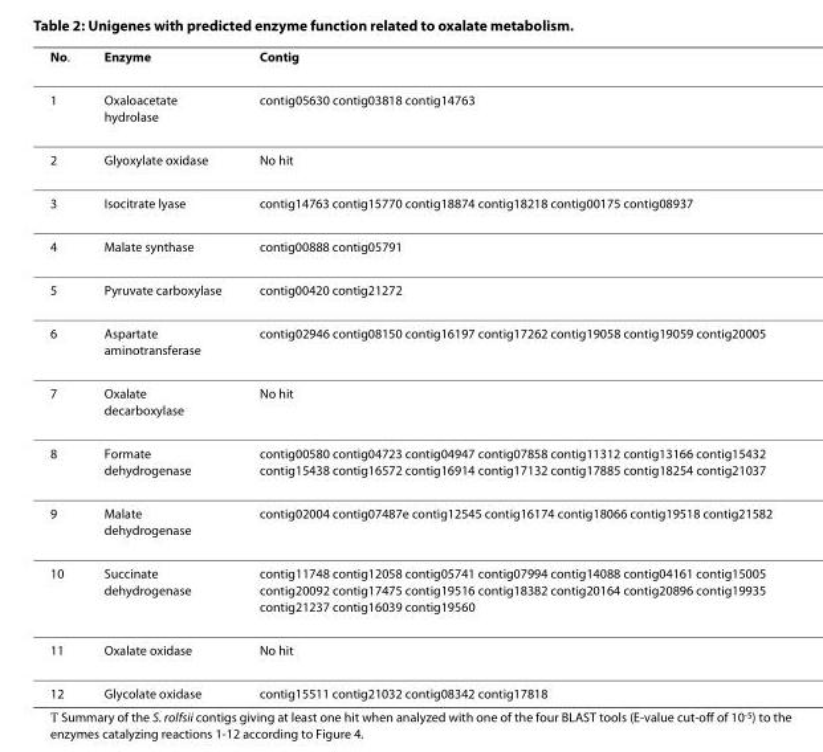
<table><thead><tr><td>No.</td><td>Enzyme</td><td>Contig</td></tr></thead><tbody><tr><td>1</td><td>Oxaloacetate hydrolase</td><td>contig05630 contig03818 contig14763</td></tr><tr><td>2</td><td>Glyoxylate oxidase</td><td>No hit</td></tr><tr><td>3</td><td>Isocitrate lyase</td><td>contig14763 contig15770 contig18874 contig18218 contig00175 contig08937</td></tr><tr><td>4</td><td>Malate synthase</td><td>contig00888 contig05791</td></tr><tr><td>5</td><td>Pyruvate carboxylase</td><td>contig00420 contig21272</td></tr><tr><td>6</td><td>Aspartate aminotransferase</td><td>contig02946 contig08150 contig16197 contig17262 contig19058 contig19059 contig20005</td></tr><tr><td>7</td><td>Oxalate decarboxylase</td><td>No hit</td></tr><tr><td>8</td><td>Formate dehydrogenase</td><td>contig00580 contig04723 contig04947 contig07858 contig11312 contig13166 contig15432 contig15438 contig16572 contig16914 contig17132 contig17885 contig18254 contig21037</td></tr><tr><td>9</td><td>Malate dehydrogenase</td><td>contig02004 contig07487e contig12545 contig16174 contig18066 contig19518 contig21582</td></tr><tr><td>10</td><td>Succinate dehydrogenase</td><td>contig11748 contig12058 contig05741 contig07994 contig14088 contig04161 contig15005 contig20092 contig17475 contig19516 contig18382 contig20164 contig20896 contig19935 contig21237 contig16039 contig19560</td></tr><tr><td>11</td><td>Oxalate oxidase</td><td>No hit</td></tr><tr><td>12</td><td>Glycolate oxidase</td><td>contig15511 contig21032 contig08342 contig17818</td></tr></tbody></table>